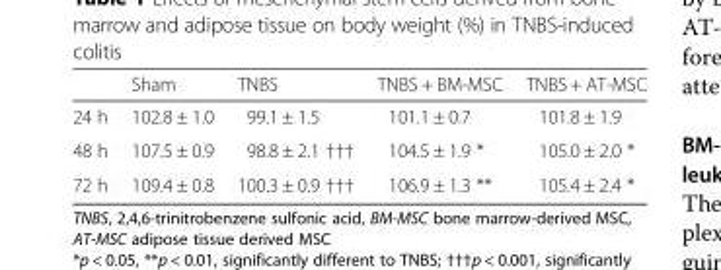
<table><thead><tr><td></td><td>Sham</td><td>TNBS</td><td>TNBS + BM-MSC</td><td>TNBS + AT-MSC</td></tr></thead><tbody><tr><td>24 h</td><td>102.8 ± 1.0</td><td>99.1 ± 1.5</td><td>101.1 ± 0.7</td><td>101.8 ± 1.9</td></tr><tr><td>48 h</td><td>107.5 ± 0.9</td><td>98.8 ± 2.1 †††</td><td>104.5 ± 1.9 *</td><td>105.0 ± 2.0 *</td></tr><tr><td>72 h</td><td>109.4 ± 0.8</td><td>100.3 ± 0.9 †††</td><td>106.9 ± 1.3 **</td><td>105.4 ± 2.4 *</td></tr></tbody></table>